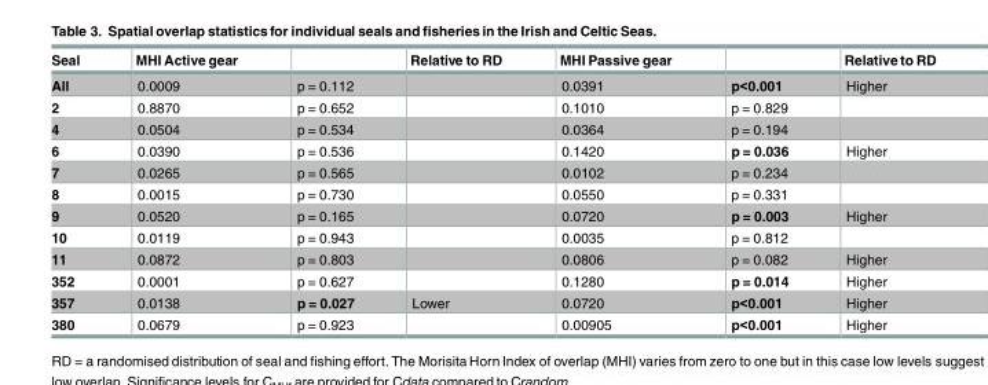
<table><thead><tr><td>Seal</td><td>MHI Active gear</td><td></td><td>Relative to RD</td><td>MHI Passive gear</td><td></td><td>Relative to RD</td></tr></thead><tbody><tr><td>All</td><td>0.0009</td><td>p = 0.112</td><td></td><td>0.0391</td><td>p&lt;0.001</td><td>Higher</td></tr><tr><td>2</td><td>0.8870</td><td>p = 0.652</td><td></td><td>0.1010</td><td>p = 0.829</td><td></td></tr><tr><td>4</td><td>0.0504</td><td>p = 0.534</td><td></td><td>0.0364</td><td>p = 0.194</td><td></td></tr><tr><td>6</td><td>0.0390</td><td>p = 0.536</td><td></td><td>0.1420</td><td>p = 0.036</td><td>Higher</td></tr><tr><td>7</td><td>0.0265</td><td>p = 0.565</td><td></td><td>0.0102</td><td>p = 0.234</td><td></td></tr><tr><td>8</td><td>0.0015</td><td>p = 0.730</td><td></td><td>0.0550</td><td>p = 0.331</td><td></td></tr><tr><td>9</td><td>0.0520</td><td>p = 0.165</td><td></td><td>0.0720</td><td>p = 0.003</td><td>Higher</td></tr><tr><td>10</td><td>0.0119</td><td>p = 0.943</td><td></td><td>0.0035</td><td>p = 0.812</td><td></td></tr><tr><td>11</td><td>0.0872</td><td>p = 0.803</td><td></td><td>0.0806</td><td>p = 0.082</td><td>Higher</td></tr><tr><td>352</td><td>0.0001</td><td>p = 0.627</td><td></td><td>0.1280</td><td>p = 0.014</td><td>Higher</td></tr><tr><td>357</td><td>0.0138</td><td>p = 0.027</td><td>Lower</td><td>0.0720</td><td>p&lt;0.001</td><td>Higher</td></tr><tr><td>380</td><td>0.0679</td><td>p = 0.923</td><td></td><td>0.00905</td><td>p&lt;0.001</td><td>Higher</td></tr></tbody></table>